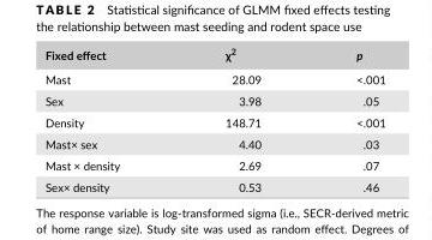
<table><thead><tr><td>Fixed effect</td><td>χ<sup>2</sup></td><td>p</td></tr></thead><tbody><tr><td>Mast</td><td>28.09</td><td>&lt;.001</td></tr><tr><td>Sex</td><td>3.98</td><td>.05</td></tr><tr><td>Density</td><td>148.71</td><td>&lt;.001</td></tr><tr><td>Mast× sex</td><td>4.40</td><td>.03</td></tr><tr><td>Mast × density</td><td>2.69</td><td>.07</td></tr><tr><td>Sex× density</td><td>0.53</td><td>.46</td></tr></tbody></table>